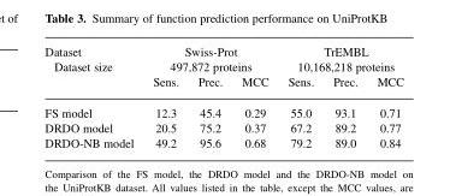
<table><thead><tr><td rowspan="3">Dataset Dataset size</td><td rowspan="2" colspan="3">Swiss-Prot 497,872 proteins</td><td rowspan="2" colspan="3">TrEMBL 10,168,218 proteins</td></tr><tr></tr><tr><td>Sens.</td><td>Prec.</td><td>MCC</td><td>Sens.</td><td>Prec.</td><td>MCC</td></tr></thead><tbody><tr><td>FS model</td><td>12.3</td><td>45.4</td><td>0.29</td><td>55.0</td><td>93.1</td><td>0.71</td></tr><tr><td>DRDO model</td><td>20.5</td><td>75.2</td><td>0.37</td><td>67.2</td><td>89.2</td><td>0.77</td></tr><tr><td>DRDO-NB model</td><td>49.2</td><td>95.6</td><td>0.68</td><td>79.2</td><td>89.0</td><td>0.84</td></tr></tbody></table>